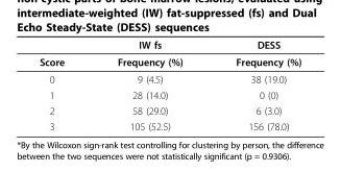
<table><thead><tr><td></td><td>IW fs</td><td>DESS</td></tr></thead><tbody><tr><td>Score</td><td>Frequency (%)</td><td>Frequency (%)</td></tr><tr><td>0</td><td>9 (4.5)</td><td>38 (19.0)</td></tr><tr><td>1</td><td>28 (14.0)</td><td>0 (0)</td></tr><tr><td>2</td><td>58 (29.0)</td><td>6 (3.0)</td></tr><tr><td>3</td><td>105 (52.5)</td><td>156 (78.0)</td></tr></tbody></table>